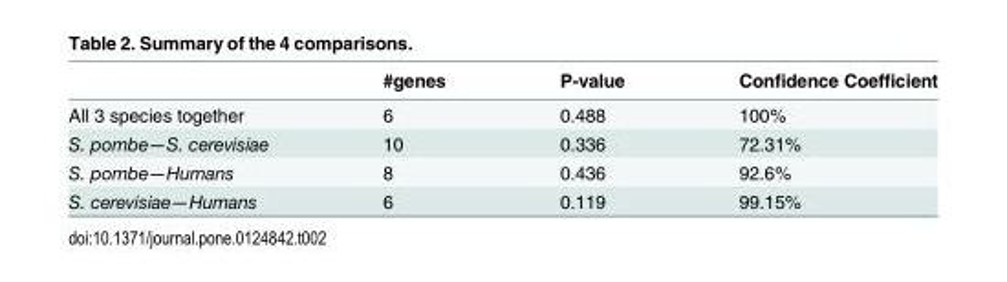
<table><thead><tr><td></td><td>#genes</td><td>P-value</td><td>Confidence Coefficient</td></tr></thead><tbody><tr><td>All 3 species together</td><td>6</td><td>0.488</td><td>100%</td></tr><tr><td>S. pombe—S. cerevisiae</td><td>10</td><td>0.336</td><td>72.31%</td></tr><tr><td>S. pombe—Humans</td><td>8</td><td>0.436</td><td>92.6%</td></tr><tr><td>S. cerevisiae—Humans</td><td>6</td><td>0.119</td><td>99.15%</td></tr></tbody></table>